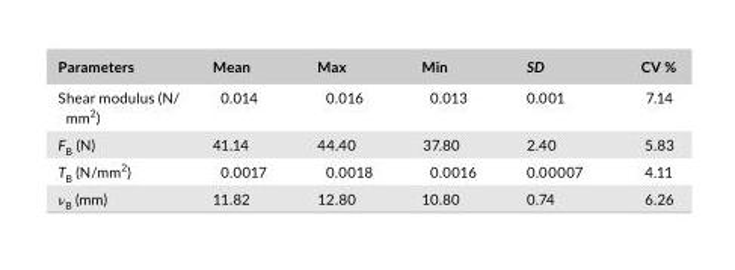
<table><thead><tr><td>Parameters</td><td>Mean</td><td>Max</td><td>Min</td><td>SD</td><td>CV %</td></tr></thead><tbody><tr><td>Shear modulus (N/ mm<sup>2</sup>)</td><td>0.014</td><td>0.016</td><td>0.013</td><td>0.001</td><td>7.14</td></tr><tr><td>F<sub>B</sub> (N)</td><td>41.14</td><td>44.40</td><td>37.80</td><td>2.40</td><td>5.83</td></tr><tr><td>T<sub>B</sub> (N/mm<sup>2</sup>)</td><td>0.0017</td><td>0.0018</td><td>0.0016</td><td>0.00007</td><td>4.11</td></tr><tr><td>ν<sub>B</sub> (mm)</td><td>11.82</td><td>12.80</td><td>10.80</td><td>0.74</td><td>6.26</td></tr></tbody></table>